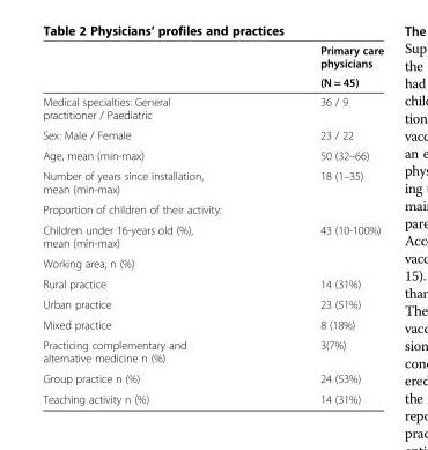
<table><thead><tr><td rowspan="2"></td><td rowspan="2">Primary care physicians (N = 45)</td></tr><tr></tr></thead><tbody><tr><td>Medical specialties: General practitioner / Paediatric</td><td>36 / 9</td></tr><tr><td>Sex: Male / Female</td><td>23 / 22</td></tr><tr><td>Age, mean (min-max)</td><td>50 (32–66)</td></tr><tr><td>Number of years since installation, mean (min-max)</td><td>18 (1–35)</td></tr><tr><td colspan="2">Proportion of children of their activity:</td></tr><tr><td>Children under 16-years old (%), mean (min-max)</td><td>43 (10-100%)</td></tr><tr><td colspan="2">Working area, n (%)</td></tr><tr><td>Rural practice</td><td>14 (31%)</td></tr><tr><td>Urban practice</td><td>23 (51%)</td></tr><tr><td>Mixed practice</td><td>8 (18%)</td></tr><tr><td>Practicing complementary and alternative medicine n (%)</td><td>3(7%)</td></tr><tr><td>Group practice n (%)</td><td>24 (53%)</td></tr><tr><td>Teaching activity n (%)</td><td>14 (31%)</td></tr></tbody></table>